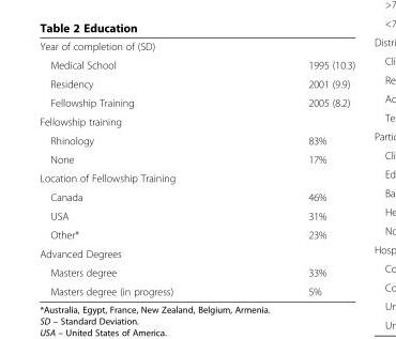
<table><tbody><tr><td colspan="2">Year of completion of (SD)</td></tr><tr><td>Medical School</td><td>1995 (10.3)</td></tr><tr><td>Residency</td><td>2001 (9.9)</td></tr><tr><td>Fellowship Training</td><td>2005 (8.2)</td></tr><tr><td colspan="2">Fellowship training</td></tr><tr><td>Rhinology</td><td>83%</td></tr><tr><td>None</td><td>17%</td></tr><tr><td colspan="2">Location of Fellowship Training</td></tr><tr><td>Canada</td><td>46%</td></tr><tr><td>USA</td><td>31%</td></tr><tr><td>Other*</td><td>23%</td></tr><tr><td colspan="2">Advanced Degrees</td></tr><tr><td>Masters degree</td><td>33%</td></tr><tr><td>Masters degree (in progress)</td><td>5%</td></tr></tbody></table>